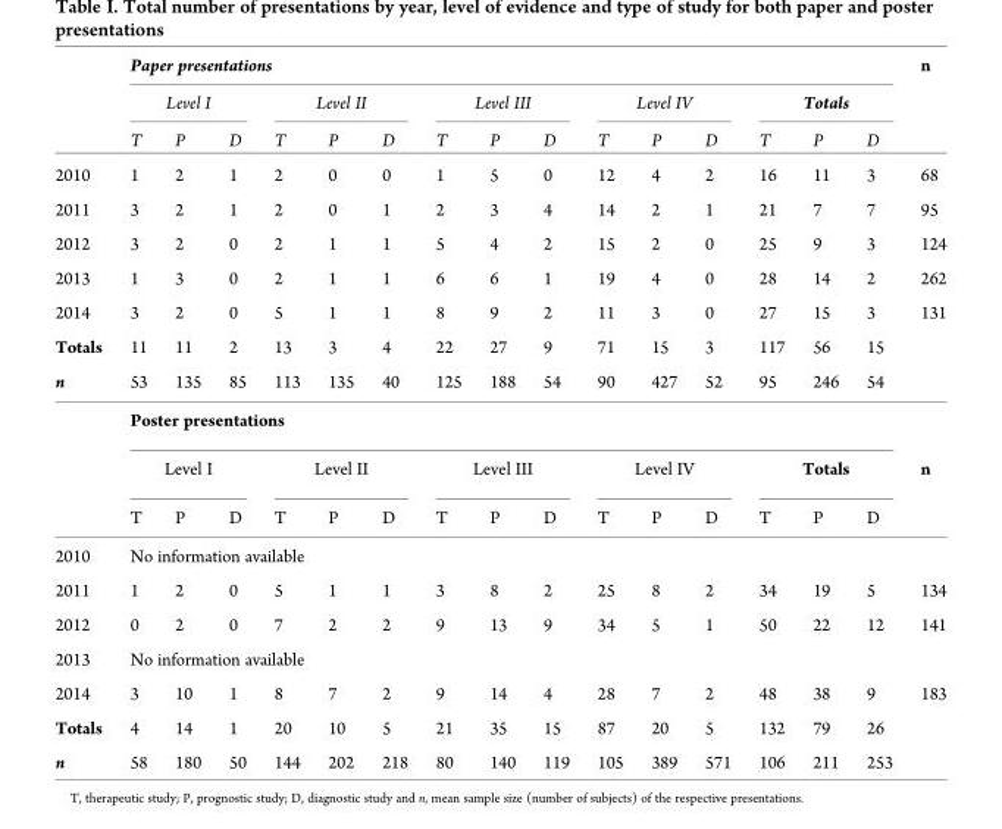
<table><thead><tr><td rowspan="3"></td><td colspan="15">Paper presentations</td><td rowspan="3">n</td></tr><tr><td colspan="3">Level I</td><td colspan="3">Level II</td><td colspan="3">Level III</td><td colspan="3">Level IV</td><td colspan="3">Totals</td></tr><tr><td>T</td><td>P</td><td>D</td><td>T</td><td>P</td><td>D</td><td>T</td><td>P</td><td>D</td><td>T</td><td>P</td><td>D</td><td>T</td><td>P</td><td>D</td></tr></thead><tbody><tr><td>2010</td><td>1</td><td>2</td><td>1</td><td>2</td><td>0</td><td>0</td><td>1</td><td>5</td><td>0</td><td>12</td><td>4</td><td>2</td><td>16</td><td>11</td><td>3</td><td>68</td></tr><tr><td>2011</td><td>3</td><td>2</td><td>1</td><td>2</td><td>0</td><td>1</td><td>2</td><td>3</td><td>4</td><td>14</td><td>2</td><td>1</td><td>21</td><td>7</td><td>7</td><td>95</td></tr><tr><td>2012</td><td>3</td><td>2</td><td>0</td><td>2</td><td>1</td><td>1</td><td>5</td><td>4</td><td>2</td><td>15</td><td>2</td><td>0</td><td>25</td><td>9</td><td>3</td><td>124</td></tr><tr><td>2013</td><td>1</td><td>3</td><td>0</td><td>2</td><td>1</td><td>1</td><td>6</td><td>6</td><td>1</td><td>19</td><td>4</td><td>0</td><td>28</td><td>14</td><td>2</td><td>262</td></tr><tr><td>2014</td><td>3</td><td>2</td><td>0</td><td>5</td><td>1</td><td>1</td><td>8</td><td>9</td><td>2</td><td>11</td><td>3</td><td>0</td><td>27</td><td>15</td><td>3</td><td>131</td></tr><tr><td>Totals</td><td>11</td><td>11</td><td>2</td><td>13</td><td>3</td><td>4</td><td>22</td><td>27</td><td>9</td><td>71</td><td>15</td><td>3</td><td>117</td><td>56</td><td>15</td><td></td></tr><tr><td rowspan="4">n</td><td>53</td><td>135</td><td>85</td><td>113</td><td>135</td><td>40</td><td>125</td><td>188</td><td>54</td><td>90</td><td>427</td><td>52</td><td>95</td><td>246</td><td>54</td><td></td></tr><tr><td colspan="15">Poster presentations</td><td></td></tr><tr><td colspan="3">Level I</td><td colspan="3">Level II</td><td colspan="3">Level III</td><td colspan="3">Level IV</td><td colspan="3">Totals</td><td>n</td></tr><tr><td>T</td><td>P</td><td>D</td><td>T</td><td>P</td><td>D</td><td>T</td><td>P</td><td>D</td><td>T</td><td>P</td><td>D</td><td>T</td><td>P</td><td>D</td><td></td></tr><tr><td>2010</td><td colspan="12">No information available</td><td></td><td></td><td></td><td></td></tr><tr><td>2011</td><td>1</td><td>2</td><td>0</td><td>5</td><td>1</td><td>1</td><td>3</td><td>8</td><td>2</td><td>25</td><td>8</td><td>2</td><td>34</td><td>19</td><td>5</td><td>134</td></tr><tr><td>2012</td><td>0</td><td>2</td><td>0</td><td>7</td><td>2</td><td>2</td><td>9</td><td>13</td><td>9</td><td>34</td><td>5</td><td>1</td><td>50</td><td>22</td><td>12</td><td>141</td></tr><tr><td>2013</td><td colspan="12">No information available</td><td></td><td></td><td></td><td></td></tr><tr><td>2014</td><td>3</td><td>10</td><td>1</td><td>8</td><td>7</td><td>2</td><td>9</td><td>14</td><td>4</td><td>28</td><td>7</td><td>2</td><td>48</td><td>38</td><td>9</td><td>183</td></tr><tr><td>Totals</td><td>4</td><td>14</td><td>1</td><td>20</td><td>10</td><td>5</td><td>21</td><td>35</td><td>15</td><td>87</td><td>20</td><td>5</td><td>132</td><td>79</td><td>26</td><td></td></tr><tr><td>n</td><td>58</td><td>180</td><td>50</td><td>144</td><td>202</td><td>218</td><td>80</td><td>140</td><td>119</td><td>105</td><td>389</td><td>571</td><td>106</td><td>211</td><td>253</td><td></td></tr></tbody></table>